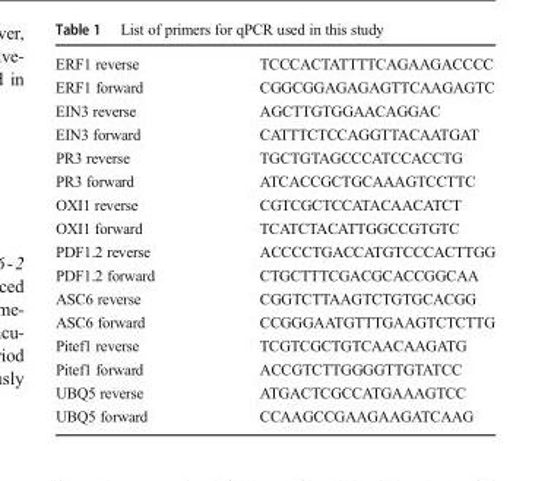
<table><tbody><tr><td>ERF1 reverse</td><td>TCCCACTATTTTCAGAAGACCCC</td></tr><tr><td>ERF1 forward</td><td>CGGCGGAGAGAGTTCAAGAGTC</td></tr><tr><td>EIN3 reverse</td><td>AGCTTGTGGAACAGGAC</td></tr><tr><td>EIN3 forward</td><td>CATTTCTCCAGGTTACAATGAT</td></tr><tr><td>PR3 reverse</td><td>TGCTGTAGCCCATCCACCTG</td></tr><tr><td>PR3 forward</td><td>ATCACCGCTGCAAAGTCCTTC</td></tr><tr><td>OXI1 reverse</td><td>CGTCGCTCCATACAACATCT</td></tr><tr><td>OXI1 forward</td><td>TCATCTACATTGGCCGTGTC</td></tr><tr><td>PDF1.2 reverse</td><td>ACCCCTGACCATGTCCCACTTGG</td></tr><tr><td>PDF1.2 forward</td><td>CTGCTTTCGACGCACCGGCAA</td></tr><tr><td>ASC6 reverse</td><td>CGGTCTTAAGTCTGTGCACGG</td></tr><tr><td>ASC6 forward</td><td>CCGGGAATGTTTGAAGTCTCTTG</td></tr><tr><td>Pitef1 reverse</td><td>TCGTCGCTGTCAACAAGATG</td></tr><tr><td>Pitef1 forward</td><td>ACCGTCTTGGGGTTGTATCC</td></tr><tr><td>UBQ5 reverse</td><td>ATGACTCGCCATGAAAGTCC</td></tr><tr><td>UBQ5 forward</td><td>CCAAGCCGAAGAAGATCAAG</td></tr></tbody></table>